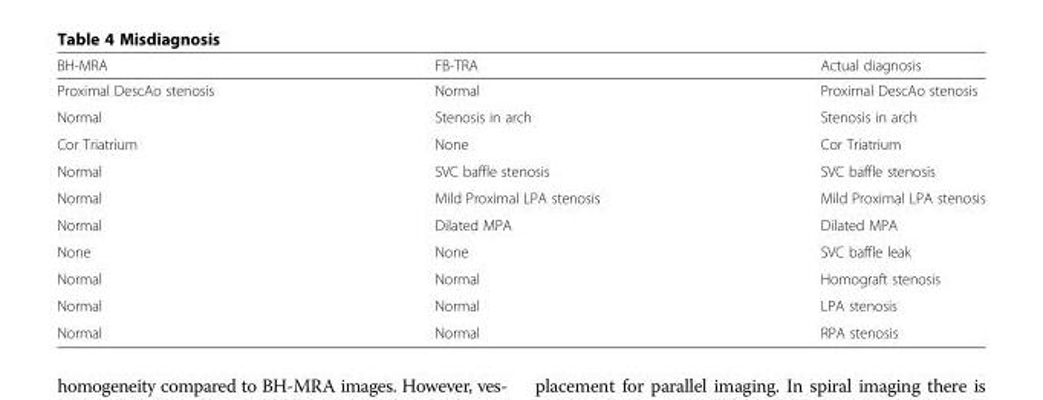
<table><thead><tr><td>BH-MRA</td><td>FB-TRA</td><td>Actual diagnosis</td></tr></thead><tbody><tr><td>Proximal DescAo stenosis</td><td>Normal</td><td>Proximal DescAo stenosis</td></tr><tr><td>Normal</td><td>Stenosis in arch</td><td>Stenosis in arch</td></tr><tr><td>Cor Triatrium</td><td>None</td><td>Cor Triatrium</td></tr><tr><td>Normal</td><td>SVC baffle stenosis</td><td>SVC baffle stenosis</td></tr><tr><td>Normal</td><td>Mild Proximal LPA stenosis</td><td>Mild Proximal LPA stenosis</td></tr><tr><td>Normal</td><td>Dilated MPA</td><td>Dilated MPA</td></tr><tr><td>None</td><td>None</td><td>SVC baffle leak</td></tr><tr><td>Normal</td><td>Normal</td><td>Homograft stenosis</td></tr><tr><td>Normal</td><td>Normal</td><td>LPA stenosis</td></tr><tr><td>Normal</td><td>Normal</td><td>RPA stenosis</td></tr></tbody></table>